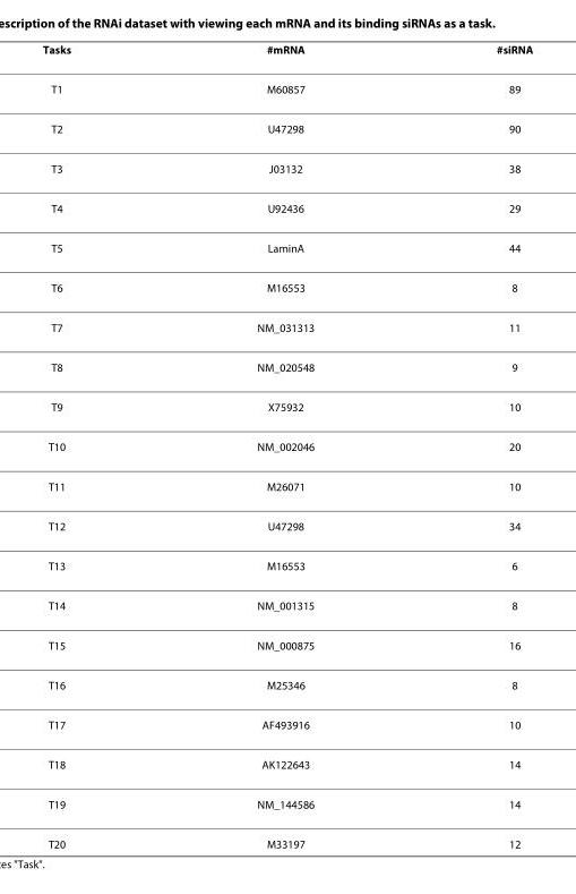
<table><thead><tr><td>Tasks</td><td>#mRNA</td><td>#siRNA</td></tr></thead><tbody><tr><td>T1</td><td>M60857</td><td>89</td></tr><tr><td>T2</td><td>U47298</td><td>90</td></tr><tr><td>T3</td><td>J03132</td><td>38</td></tr><tr><td>T4</td><td>U92436</td><td>29</td></tr><tr><td>T5</td><td>LaminA</td><td>44</td></tr><tr><td>T6</td><td>M16553</td><td>8</td></tr><tr><td>T7</td><td>NM_031313</td><td>11</td></tr><tr><td>T8</td><td>NM_020548</td><td>9</td></tr><tr><td>T9</td><td>X75932</td><td>10</td></tr><tr><td>T10</td><td>NM_002046</td><td>20</td></tr><tr><td>T11</td><td>M26071</td><td>10</td></tr><tr><td>T12</td><td>U47298</td><td>34</td></tr><tr><td>T13</td><td>M16553</td><td>6</td></tr><tr><td>T14</td><td>NM_001315</td><td>8</td></tr><tr><td>T15</td><td>NM_000875</td><td>16</td></tr><tr><td>T16</td><td>M25346</td><td>8</td></tr><tr><td>T17</td><td>AF493916</td><td>10</td></tr><tr><td>T18</td><td>AK122643</td><td>14</td></tr><tr><td>T19</td><td>NM_144586</td><td>14</td></tr><tr><td>T20</td><td>M33197</td><td>12</td></tr></tbody></table>